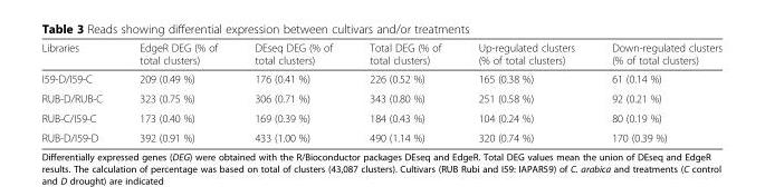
<table><thead><tr><td>Libraries</td><td>EdgeR DEG (% of total clusters)</td><td>DEseq DEG (% of total clusters)</td><td>Total DEG (% of total clusters)</td><td>Up-regulated clusters (% of total clusters)</td><td>Down-regulated clusters (% of total clusters)</td></tr></thead><tbody><tr><td>I59-D/I59-C</td><td>209 (0.49 %)</td><td>176 (0.41 %)</td><td>226 (0.52 %)</td><td>165 (0.38 %)</td><td>61 (0.14 %)</td></tr><tr><td>RUB-D/RUB-C</td><td>323 (0.75 %)</td><td>306 (0.71 %)</td><td>343 (0.80 %)</td><td>251 (0.58 %)</td><td>92 (0.21 %)</td></tr><tr><td>RUB-C/I59-C</td><td>173 (0.40 %)</td><td>169 (0.39 %)</td><td>184 (0.43 %)</td><td>104 (0.24 %)</td><td>80 (0.19 %)</td></tr><tr><td>RUB-D/I59-D</td><td>392 (0.91 %)</td><td>433 (1.00 %)</td><td>490 (1.14 %)</td><td>320 (0.74 %)</td><td>170 (0.39 %)</td></tr></tbody></table>